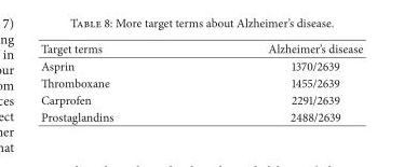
<table><thead><tr><td>Target terms</td><td>Alzheimer’s disease</td></tr></thead><tbody><tr><td>Asprin</td><td>1370/2639</td></tr><tr><td>Thromboxane</td><td>1455/2639</td></tr><tr><td>Carprofen</td><td>2291/2639</td></tr><tr><td>Prostaglandins</td><td>2488/2639</td></tr></tbody></table>